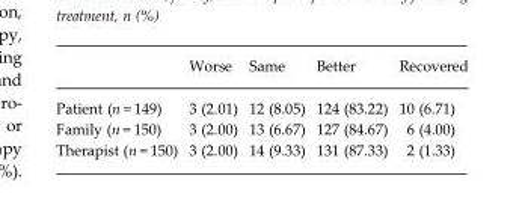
<table><thead><tr><td></td><td>Worse</td><td>Same</td><td>Better</td><td>Recovered</td></tr></thead><tbody><tr><td>Patient (n = 149)</td><td>3 (2.01)</td><td>12 (8.05)</td><td>124 (83.22)</td><td>10 (6.71)</td></tr><tr><td>Family (n = 150)</td><td>3 (2.00)</td><td>13 (6.67)</td><td>127 (84.67)</td><td>6 (4.00)</td></tr><tr><td>Therapist (n = 150)</td><td>3 (2.00)</td><td>14 (9.33)</td><td>131 (87.33)</td><td>2 (1.33)</td></tr></tbody></table>